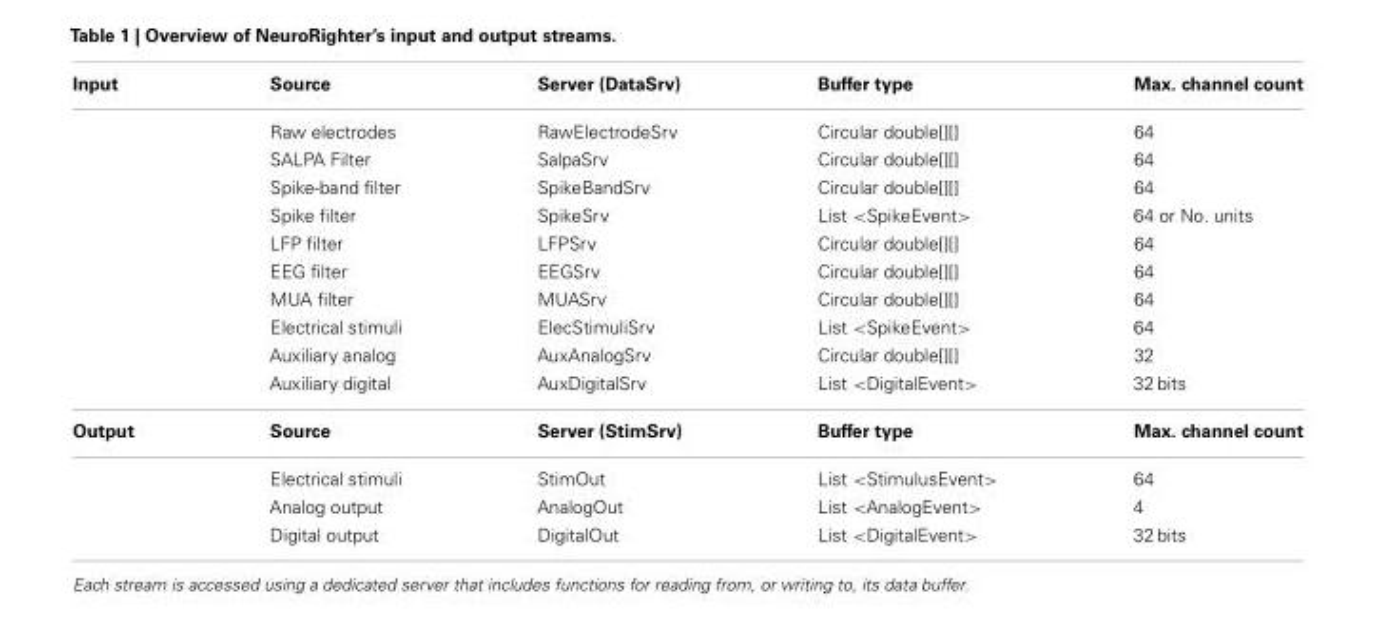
<table><thead><tr><td>Input</td><td>Source</td><td>Server (DataSrv)</td><td>Buffer type</td><td>Max. channel count</td></tr></thead><tbody><tr><td></td><td>Raw electrodes</td><td>RawElectrodeSrv</td><td>Circular double[][]</td><td>64</td></tr><tr><td></td><td>SALPA Filter</td><td>SalpaSrv</td><td>Circular double[][]</td><td>64</td></tr><tr><td></td><td>Spike-band filter</td><td>SpikeBandSrv</td><td>Circular double[][]</td><td>64</td></tr><tr><td></td><td>Spike filter</td><td>SpikeSrv</td><td>List &lt;SpikeEvent&gt;</td><td>64 or No. units</td></tr><tr><td></td><td>LFP filter</td><td>LFPSrv</td><td>Circular double[][]</td><td>64</td></tr><tr><td></td><td>EEG filter</td><td>EEGSrv</td><td>Circular double[][]</td><td>64</td></tr><tr><td></td><td>MUA filter</td><td>MUASrv</td><td>Circular double[][]</td><td>64</td></tr><tr><td></td><td>Electrical stimuli</td><td>ElecStimuliSrv</td><td>List &lt;SpikeEvent&gt;</td><td>64</td></tr><tr><td></td><td>Auxiliary analog</td><td>AuxAnalogSrv</td><td>Circular double[][]</td><td>32</td></tr><tr><td></td><td>Auxiliary digital</td><td>AuxDigitalSrv</td><td>List &lt;DigitalEvent&gt;</td><td>32 bits</td></tr><tr><td rowspan="4">Output</td><td>Source</td><td>Server (StimSrv)</td><td>Buffer type</td><td>Max. channel count</td></tr><tr><td>Electrical stimuli</td><td>StimOut</td><td>List &lt;StimulusEvent&gt;</td><td>64</td></tr><tr><td>Analog output</td><td>AnalogOut</td><td>List &lt;AnalogEvent&gt;</td><td>4</td></tr><tr><td>Digital output</td><td>DigitalOut</td><td>List &lt;DigitalEvent&gt;</td><td>32 bits</td></tr></tbody></table>